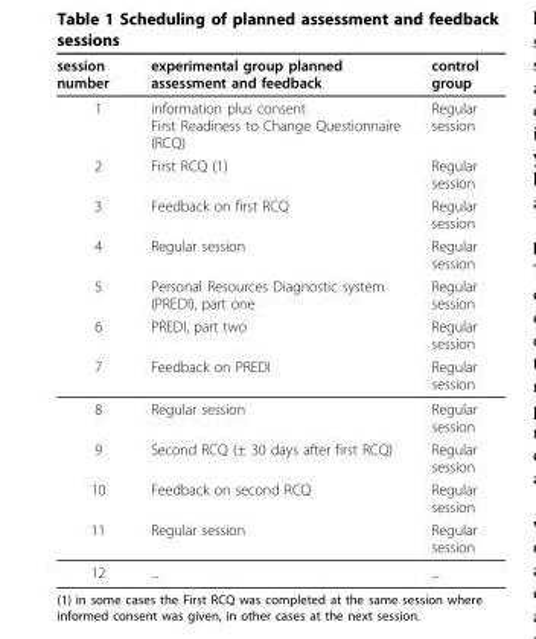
<table><thead><tr><td>session number</td><td>experimental group planned assessment and feedback</td><td>control group</td></tr></thead><tbody><tr><td>1</td><td>information plus consent First Readiness to Change Questionnaire (RCQ)</td><td>Regular session</td></tr><tr><td>2</td><td>First RCQ (1)</td><td>Regular session</td></tr><tr><td>3</td><td>Feedback on first RCQ</td><td>Regular session</td></tr><tr><td>4</td><td>Regular session</td><td>Regular session</td></tr><tr><td>5</td><td>Personal Resources Diagnostic system (PREDI), part one</td><td>Regular session</td></tr><tr><td>6</td><td>PREDI, part two</td><td>Regular session</td></tr><tr><td>7</td><td>Feedback on PREDI</td><td>Regular session</td></tr><tr><td>8</td><td>Regular session</td><td>Regular session</td></tr><tr><td>9</td><td>Second RCQ (± 30 days after first RCQ)</td><td>Regular session</td></tr><tr><td>10</td><td>Feedback on second RCQ</td><td>Regular session</td></tr><tr><td>11</td><td>Regular session</td><td>Regular session</td></tr><tr><td>12</td><td>...</td><td>...</td></tr></tbody></table>